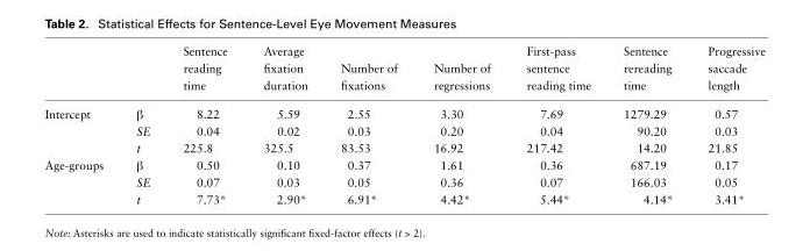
<table><thead><tr><td></td><td></td><td>Sentence reading time</td><td>Average fixation duration</td><td>Number of fixations</td><td>Number of regressions</td><td>First-pass sentence reading time</td><td>Sentence rereading time</td><td>Progressive saccade length</td></tr></thead><tbody><tr><td rowspan="3">Intercept</td><td>β</td><td>8.22</td><td>5.59</td><td>2.55</td><td>3.30</td><td>7.69</td><td>1279.29</td><td>0.57</td></tr><tr><td>SE</td><td>0.04</td><td>0.02</td><td>0.03</td><td>0.20</td><td>0.04</td><td>90.20</td><td>0.03</td></tr><tr><td>t</td><td>225.8</td><td>325.5</td><td>83.53</td><td>16.92</td><td>217.42</td><td>14.20</td><td>21.85</td></tr><tr><td rowspan="3">Age-groups</td><td>β</td><td>0.50</td><td>0.10</td><td>0.37</td><td>1.61</td><td>0.36</td><td>687.19</td><td>0.17</td></tr><tr><td>SE</td><td>0.07</td><td>0.03</td><td>0.05</td><td>0.36</td><td>0.07</td><td>166.03</td><td>0.05</td></tr><tr><td>t</td><td>7.73*</td><td>2.90*</td><td>6.91*</td><td>4.42*</td><td>5.44*</td><td>4.14*</td><td>3.41*</td></tr></tbody></table>